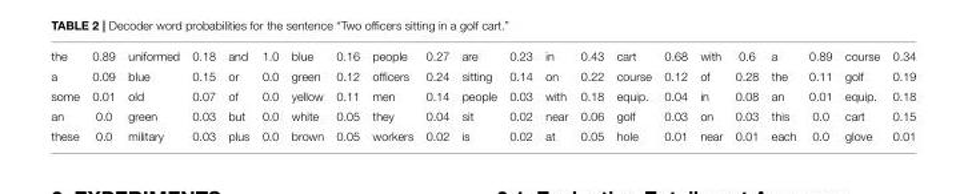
<table><tbody><tr><td>the</td><td>0.89</td><td>uniformed</td><td>0.18</td><td>and</td><td>1.0</td><td>blue</td><td>0.16</td><td>people</td><td>0.27</td><td>are</td><td>0.23</td><td>in</td><td>0.43</td><td>cart</td><td>0.68</td><td>with</td><td>0.6</td><td>a</td><td>0.89</td><td>course</td><td>0.34</td></tr><tr><td>a</td><td>0.09</td><td>blue</td><td>0.15</td><td>or</td><td>0.0</td><td>green</td><td>0.12</td><td>officers</td><td>0.24</td><td>sitting</td><td>0.14</td><td>on</td><td>0.22</td><td>course</td><td>0.12</td><td>of</td><td>0.28</td><td>the</td><td>0.11</td><td>golf</td><td>0.19</td></tr><tr><td>some</td><td>0.01</td><td>old</td><td>0.07</td><td>of</td><td>0.0</td><td>yellow</td><td>0.11</td><td>men</td><td>0.14</td><td>people</td><td>0.03</td><td>with</td><td>0.18</td><td>equip.</td><td>0.04</td><td>in</td><td>0.08</td><td>an</td><td>0.01</td><td>equip.</td><td>0.18</td></tr><tr><td>an</td><td>0.0</td><td>green</td><td>0.03</td><td>but</td><td>0.0</td><td>white</td><td>0.05</td><td>they</td><td>0.04</td><td>sit</td><td>0.02</td><td>near</td><td>0.06</td><td>golf</td><td>0.03</td><td>on</td><td>0.03</td><td>this</td><td>0.0</td><td>cart</td><td>0.15</td></tr><tr><td>these</td><td>0.0</td><td>military</td><td>0.03</td><td>plus</td><td>0.0</td><td>brown</td><td>0.05</td><td>workers</td><td>0.02</td><td>is</td><td>0.02</td><td>at</td><td>0.05</td><td>hole</td><td>0.01</td><td>near</td><td>0.01</td><td>each</td><td>0.0</td><td>glove</td><td>0.01</td></tr></tbody></table>